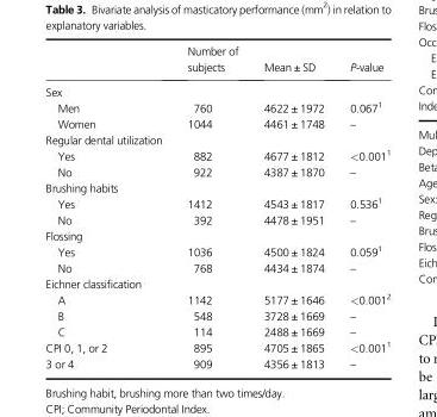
<table><thead><tr><td></td><td>Number of subjects</td><td>Mean ± SD</td><td>P-value</td></tr></thead><tbody><tr><td colspan="4">Sex</td></tr><tr><td>Men</td><td>760</td><td>4622 ± 1972</td><td>0.0671</td></tr><tr><td>Women</td><td>1044</td><td>4461 ± 1748</td><td>–</td></tr><tr><td colspan="4">Regular dental utilization</td></tr><tr><td>Yes</td><td>882</td><td>4677 ± 1812</td><td>&lt;0.0011</td></tr><tr><td>No</td><td>922</td><td>4387 ± 1870</td><td>–</td></tr><tr><td colspan="4">Brushing habits</td></tr><tr><td>Yes</td><td>1412</td><td>4543 ± 1817</td><td>0.5361</td></tr><tr><td>No</td><td>392</td><td>4478 ± 1951</td><td>–</td></tr><tr><td colspan="4">Flossing</td></tr><tr><td>Yes</td><td>1036</td><td>4500 ± 1824</td><td>0.0591</td></tr><tr><td>No</td><td>768</td><td>4434 ± 1874</td><td>–</td></tr><tr><td colspan="4">Eichner classification</td></tr><tr><td>A</td><td>1142</td><td>5177 ± 1646</td><td>&lt;0.0012</td></tr><tr><td>B</td><td>548</td><td>3728 ± 1669</td><td>–</td></tr><tr><td>C</td><td>114</td><td>2488 ± 1669</td><td>–</td></tr><tr><td>CPI 0, 1, or 2</td><td>895</td><td>4705 ± 1865</td><td>&lt;0.0011</td></tr><tr><td>3 or 4</td><td>909</td><td>4356 ± 1813</td><td>–</td></tr></tbody></table>